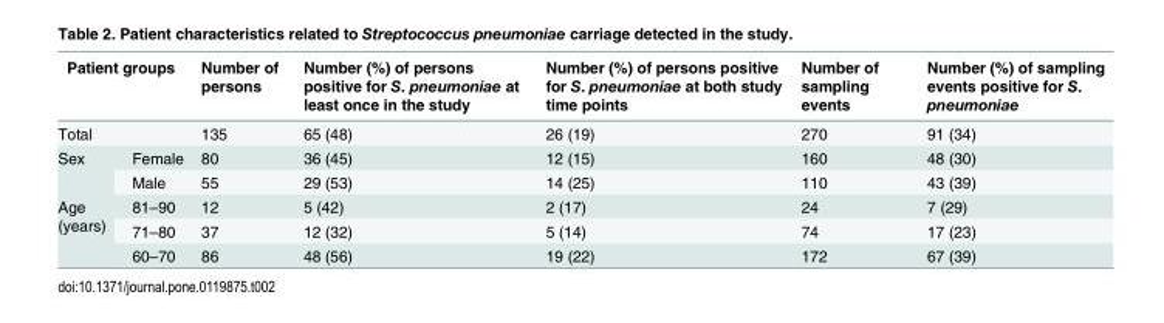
<table><thead><tr><td colspan="2">Patient groups</td><td rowspan="2">Number of persons 135</td><td rowspan="2">Number (%) of persons positive for S. pneumoniae at least once in the study 65 (48)</td><td rowspan="2">Number (%) of persons positive for S. pneumoniae at both study time points 26 (19)</td><td rowspan="2">Number of sampling events 270</td><td rowspan="2">Number (%) of sampling events positive for S. pneumoniae 91 (34)</td></tr><tr><td>Total</td><td></td></tr></thead><tbody><tr><td rowspan="2">Sex</td><td>Female</td><td>80</td><td>36 (45)</td><td>12 (15)</td><td>160</td><td>48 (30)</td></tr><tr><td>Male</td><td>55</td><td>29 (53)</td><td>14 (25)</td><td>110</td><td>43 (39)</td></tr><tr><td rowspan="3">Age (years)</td><td>81–90</td><td>12</td><td>5 (42)</td><td>2 (17)</td><td>24</td><td>7 (29)</td></tr><tr><td>71–80</td><td>37</td><td>12 (32)</td><td>5 (14)</td><td>74</td><td>17 (23)</td></tr><tr><td>60–70</td><td>86</td><td>48 (56)</td><td>19 (22)</td><td>172</td><td>67 (39)</td></tr></tbody></table>